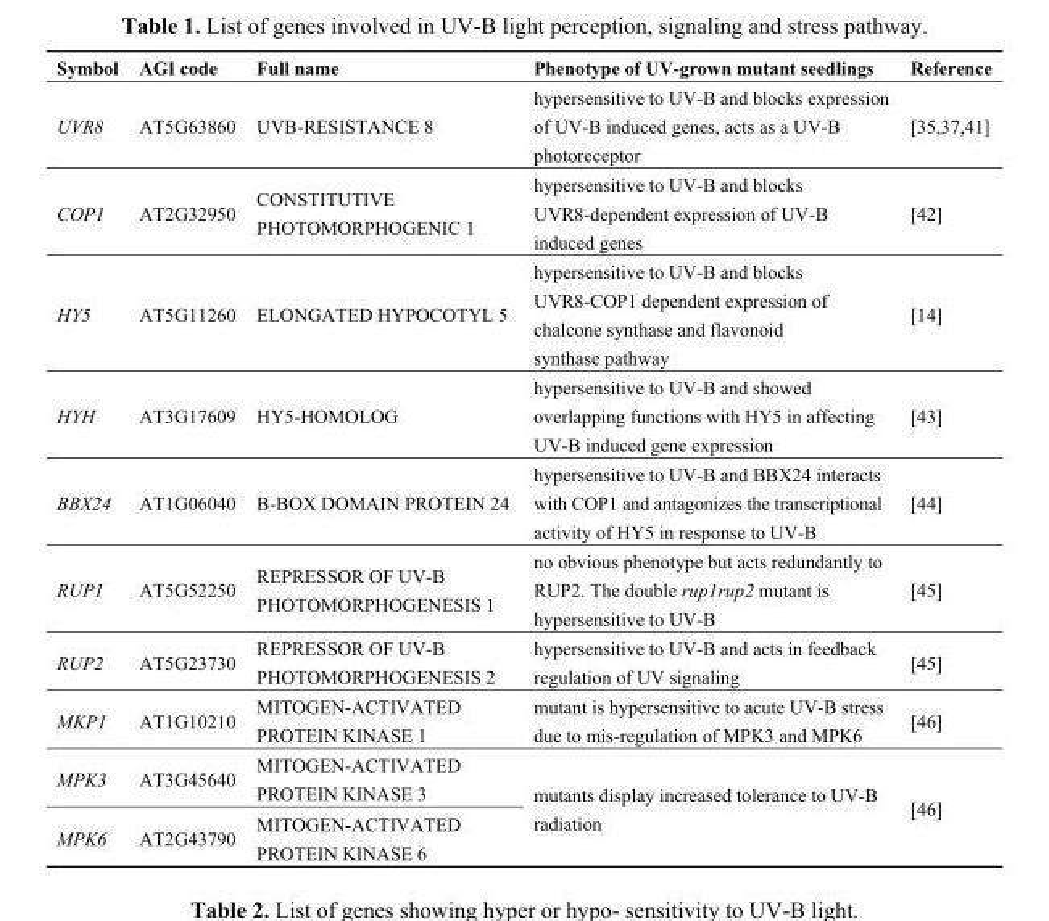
<table><thead><tr><td>Symbol</td><td>AGI code</td><td>Full name</td><td>Phenotype of UV-grown mutant seedlings</td><td>Reference</td></tr></thead><tbody><tr><td>UVR8</td><td>AT5G63860</td><td>UVB-RESISTANCE 8</td><td>hypersensitive to UV-B and blocks expression of UV-B induced genes, acts as a UV-B photoreceptor</td><td>[ 35, 37, 41]</td></tr><tr><td>COP1</td><td>AT2G32950</td><td>CONSTITUTIVE PHOTOMORPHOGENIC 1</td><td>hypersensitive to UV-B and blocks UVR8-dependent expression of UV-B induced genes</td><td>[ 42]</td></tr><tr><td>HY5</td><td>AT5G11260</td><td>ELONGATED HYPOCOTYL 5</td><td>hypersensitive to UV-B and blocks UVR8-COP1 dependent expression of chalcone synthase and flavonoid synthase pathway</td><td>[ 14]</td></tr><tr><td>HYH</td><td>AT3G17609</td><td>HY5-HOMOLOG</td><td>hypersensitive to UV-B and showed overlapping functions with HY5 in affecting UV-B induced gene expression</td><td>[ 43]</td></tr><tr><td>BBX24</td><td>AT1G06040</td><td>B-BOX DOMAIN PROTEIN 24</td><td>hypersensitive to UV-B and BBX24 interacts with COP1 and antagonizes the transcriptional activity of HY5 in response to UV-B</td><td>[ 44]</td></tr><tr><td>RUP1</td><td>AT5G52250</td><td>REPRESSOR OF UV-B PHOTOMORPHOGENESIS 1</td><td>no obvious phenotype but acts redundantly to RUP2. The double rup1rup2 mutant is hypersensitive to UV-B</td><td>[ 45]</td></tr><tr><td>RUP2</td><td>AT5G23730</td><td>REPRESSOR OF UV-B PHOTOMORPHOGENESIS 2</td><td>hypersensitive to UV-B and acts in feedback regulation of UV signaling</td><td>[ 45]</td></tr><tr><td>MKP1</td><td>AT1G10210</td><td>MITOGEN-ACTIVATED PROTEIN KINASE 1</td><td>mutant is hypersensitive to acute UV-B stress due to mis-regulation of MPK3 and MPK6</td><td>[ 46]</td></tr><tr><td>MPK3</td><td>AT3G45640</td><td>MITOGEN-ACTIVATED PROTEIN KINASE 3</td><td rowspan="2">mutants display increased tolerance to UV-B radiation</td><td rowspan="2">[ 46]</td></tr><tr><td>MPK6</td><td>AT2G43790</td><td>MITOGEN-ACTIVATED PROTEIN KINASE 6</td></tr></tbody></table>